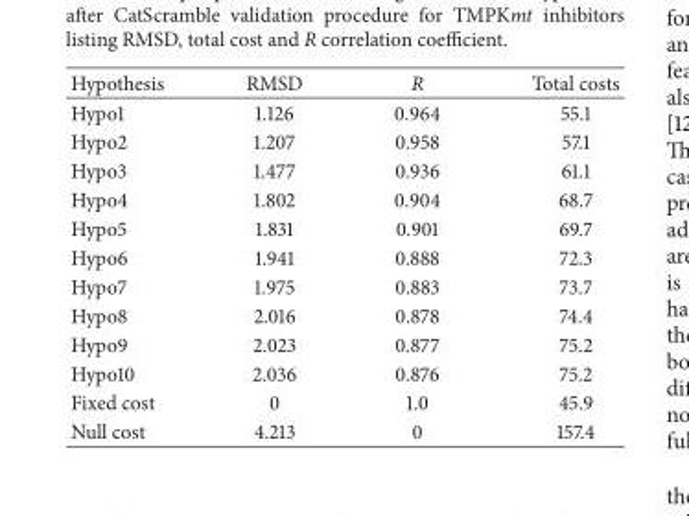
<table><thead><tr><td>Hypothesis</td><td>RMSD</td><td>R</td><td>Total costs</td></tr></thead><tbody><tr><td>Hypo1</td><td>1.126</td><td>0.964</td><td>55.1</td></tr><tr><td>Hypo2</td><td>1.207</td><td>0.958</td><td>57.1</td></tr><tr><td>Hypo3</td><td>1.477</td><td>0.936</td><td>61.1</td></tr><tr><td>Hypo4</td><td>1.802</td><td>0.904</td><td>68.7</td></tr><tr><td>Hypo5</td><td>1.831</td><td>0.901</td><td>69.7</td></tr><tr><td>Hypo6</td><td>1.941</td><td>0.888</td><td>72.3</td></tr><tr><td>Hypo7</td><td>1.975</td><td>0.883</td><td>73.7</td></tr><tr><td>Hypo8</td><td>2.016</td><td>0.878</td><td>74.4</td></tr><tr><td>Hypo9</td><td>2.023</td><td>0.877</td><td>75.2</td></tr><tr><td>Hypo10</td><td>2.036</td><td>0.876</td><td>75.2</td></tr><tr><td>Fixed cost</td><td>0</td><td>1.0</td><td>45.9</td></tr><tr><td>Null cost</td><td>4.213</td><td>0</td><td>157.4</td></tr></tbody></table>